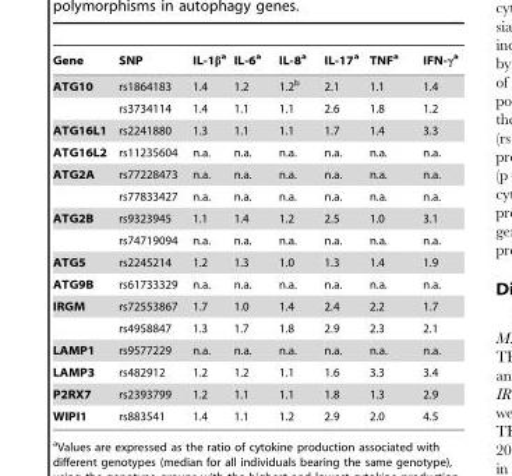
<table><thead><tr><td>Gene</td><td>SNP</td><td>IL-1β<sup>a</sup></td><td>IL-6<sup>a</sup></td><td>IL-8<sup>a</sup></td><td>IL-17<sup>a</sup></td><td>TNF<sup>a</sup></td><td>IFN-γ<sup>a</sup></td></tr></thead><tbody><tr><td rowspan="2">ATG10</td><td>rs1864183</td><td>1.4</td><td>1.2</td><td>1.2<sup>b</sup></td><td>2.1</td><td>1.1</td><td>1.4</td></tr><tr><td>rs3734114</td><td>1.4</td><td>1.1</td><td>1.1</td><td>2.6</td><td>1.8</td><td>1.2</td></tr><tr><td>ATG16L1</td><td>rs2241880</td><td>1.3</td><td>1.1</td><td>1.1</td><td>1.7</td><td>1.4</td><td>3.3</td></tr><tr><td>ATG16L2</td><td>rs11235604</td><td>n.a.</td><td>n.a.</td><td>n.a.</td><td>n.a.</td><td>n.a.</td><td>n.a.</td></tr><tr><td rowspan="2">ATG2A</td><td>rs77228473</td><td>n.a.</td><td>n.a.</td><td>n.a.</td><td>n.a.</td><td>n.a.</td><td>n.a.</td></tr><tr><td>rs77833427</td><td>n.a.</td><td>n.a.</td><td>n.a.</td><td>n.a.</td><td>n.a.</td><td>n.a.</td></tr><tr><td rowspan="2">ATG2B</td><td>rs9323945</td><td>1.1</td><td>1.4</td><td>1.2</td><td>2.5</td><td>1.0</td><td>3.1</td></tr><tr><td>rs74719094</td><td>n.a.</td><td>n.a.</td><td>n.a.</td><td>n.a.</td><td>n.a.</td><td>n.a.</td></tr><tr><td>ATG5</td><td>rs2245214</td><td>1.2</td><td>1.3</td><td>1.0</td><td>1.3</td><td>1.4</td><td>1.9</td></tr><tr><td>ATG9B</td><td>rs61733329</td><td>n.a.</td><td>n.a.</td><td>n.a.</td><td>n.a.</td><td>n.a.</td><td>n.a.</td></tr><tr><td rowspan="2">IRGM</td><td>rs72553867</td><td>1.7</td><td>1.0</td><td>1.4</td><td>2.4</td><td>2.2</td><td>1.7</td></tr><tr><td>rs4958847</td><td>1.3</td><td>1.7</td><td>1.8</td><td>2.9</td><td>2.3</td><td>2.1</td></tr><tr><td>LAMP1</td><td>rs9577229</td><td>n.a.</td><td>n.a.</td><td>n.a.</td><td>n.a.</td><td>n.a.</td><td>n.a.</td></tr><tr><td>LAMP3</td><td>rs482912</td><td>1.2</td><td>1.2</td><td>1.1</td><td>1.6</td><td>3.3</td><td>3.4</td></tr><tr><td>P2RX7</td><td>rs2393799</td><td>1.2</td><td>1.1</td><td>1.1</td><td>1.8</td><td>1.3</td><td>2.9</td></tr><tr><td>WIPI1</td><td>rs883541</td><td>1.4</td><td>1.1</td><td>1.2</td><td>2.9</td><td>2.0</td><td>4.5</td></tr></tbody></table>